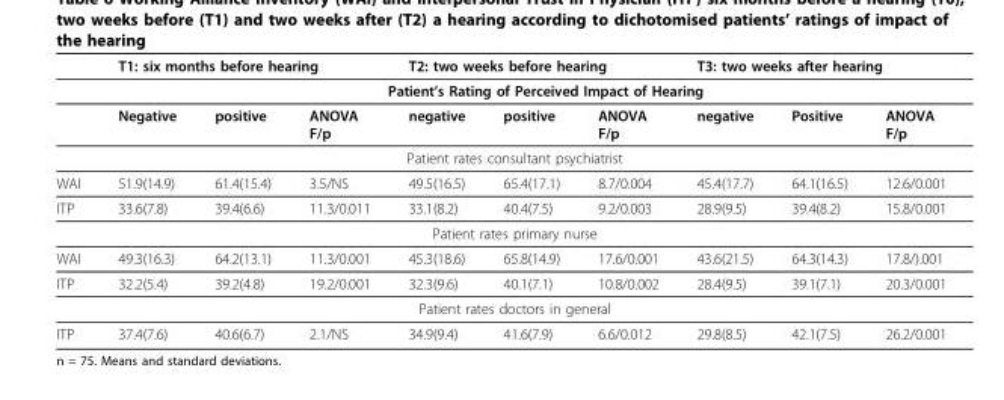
<table><thead><tr><td rowspan="3"></td><td colspan="3">T1: six months before hearing</td><td colspan="3">T2: two weeks before hearing</td><td colspan="3">T3: two weeks after hearing</td></tr><tr><td colspan="9">Patient’s Rating of Perceived Impact of Hearing</td></tr><tr><td>Negative</td><td>positive</td><td>ANOVA F/p</td><td>negative</td><td>positive</td><td>ANOVA F/p</td><td>negative</td><td>Positive</td><td>ANOVA F/p</td></tr></thead><tbody><tr><td colspan="10">Patient rates consultant psychiatrist</td></tr><tr><td>WAI</td><td>51.9(14.9)</td><td>61.4(15.4)</td><td>3.5/NS</td><td>49.5(16.5)</td><td>65.4(17.1)</td><td>8.7/0.004</td><td>45.4(17.7)</td><td>64.1(16.5)</td><td>12.6/0.001</td></tr><tr><td>ITP</td><td>33.6(7.8)</td><td>39.4(6.6)</td><td>11.3/0.011</td><td>33.1(8.2)</td><td>40.4(7.5)</td><td>9.2/0.003</td><td>28.9(9.5)</td><td>39.4(8.2)</td><td>15.8/0.001</td></tr><tr><td colspan="10">Patient rates primary nurse</td></tr><tr><td>WAI</td><td>49.3(16.3)</td><td>64.2(13.1)</td><td>11.3/0.001</td><td>45.3(18.6)</td><td>65.8(14.9)</td><td>17.6/0.001</td><td>43.6(21.5)</td><td>64.3(14.3)</td><td>17.8/).001</td></tr><tr><td>ITP</td><td>32.2(5.4)</td><td>39.2(4.8)</td><td>19.2/0.001</td><td>32.3(9.6)</td><td>40.1(7.1)</td><td>10.8/0.002</td><td>28.4(9.5)</td><td>39.1(7.1)</td><td>20.3/0.001</td></tr><tr><td colspan="10">Patient rates doctors in general</td></tr><tr><td>ITP</td><td>37.4(7.6)</td><td>40.6(6.7)</td><td>2.1/NS</td><td>34.9(9.4)</td><td>41.6(7.9)</td><td>6.6/0.012</td><td>29.8(8.5)</td><td>42.1(7.5)</td><td>26.2/0.001</td></tr></tbody></table>